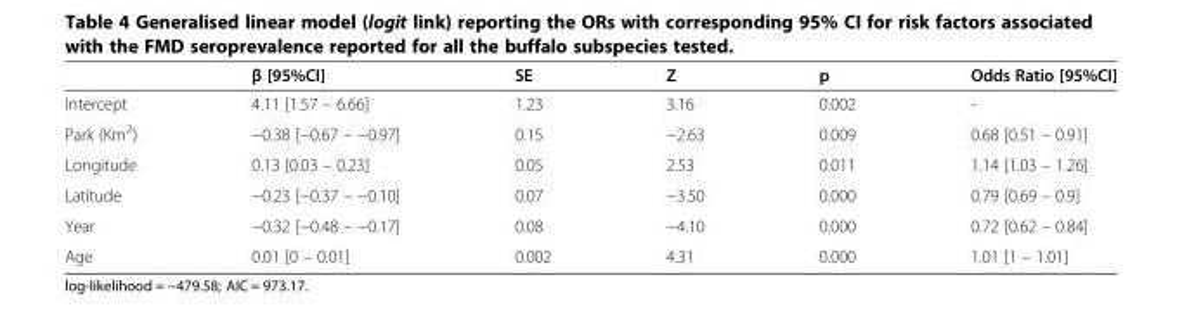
<table><thead><tr><td></td><td>β [95%CI]</td><td>SE</td><td>Z</td><td>p</td><td>Odds Ratio [95%CI]</td></tr></thead><tbody><tr><td>Intercept</td><td>4.11 [1.57 – 6.66]</td><td>1.23</td><td>3.16</td><td>0.002</td><td>-</td></tr><tr><td>Park (Km<sup>2</sup>)</td><td>−0.38 [−0.67 – −0.97]</td><td>0.15</td><td>−2.63</td><td>0.009</td><td>0.68 [0.51 – 0.91]</td></tr><tr><td>Longitude</td><td>0.13 [0.03 – 0.23]</td><td>0.05</td><td>2.53</td><td>0.011</td><td>1.14 [1.03 – 1.26]</td></tr><tr><td>Latitude</td><td>−0.23 [−0.37 – −0.10]</td><td>0.07</td><td>−3.50</td><td>0.000</td><td>0.79 [0.69 – 0.9]</td></tr><tr><td>Year</td><td>−0.32 [−0.48 – −0.17]</td><td>0.08</td><td>−4.10</td><td>0.000</td><td>0.72 [0.62 – 0.84]</td></tr><tr><td>Age</td><td>0.01 [0 – 0.01]</td><td>0.002</td><td>4.31</td><td>0.000</td><td>1.01 [1 – 1.01]</td></tr></tbody></table>